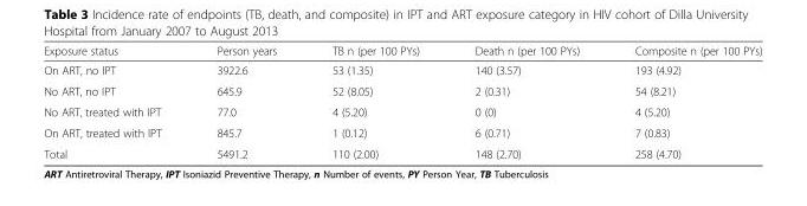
<table><thead><tr><td>Exposure status</td><td>Person years</td><td>TB n (per 100 PYs)</td><td>Death n (per 100 PYs)</td><td>Composite n (per 100 PYs)</td></tr></thead><tbody><tr><td>On ART, no IPT</td><td>3922.6</td><td>53 (1.35)</td><td>140 (3.57)</td><td>193 (4.92)</td></tr><tr><td>No ART, no IPT</td><td>645.9</td><td>52 (8.05)</td><td>2 (0.31)</td><td>54 (8.21)</td></tr><tr><td>No ART, treated with IPT</td><td>77.0</td><td>4 (5.20)</td><td>0 (0)</td><td>4 (5.20)</td></tr><tr><td>On ART, treated with IPT</td><td>845.7</td><td>1 (0.12)</td><td>6 (0.71)</td><td>7 (0.83)</td></tr><tr><td>Total</td><td>5491.2</td><td>110 (2.00)</td><td>148 (2.70)</td><td>258 (4.70)</td></tr></tbody></table>